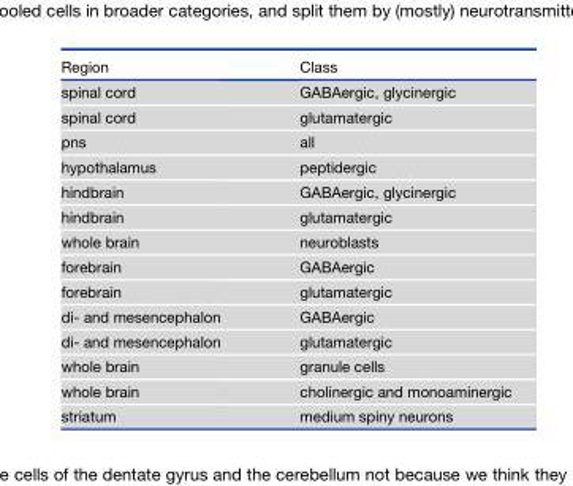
<table><thead><tr><td>Region</td><td>Class</td></tr></thead><tbody><tr><td>spinal cord</td><td>GABAergic, glycinergic</td></tr><tr><td>spinal cord</td><td>glutamatergic</td></tr><tr><td>pns</td><td>all</td></tr><tr><td>hypothalamus</td><td>peptidergic</td></tr><tr><td>hindbrain</td><td>GABAergic, glycinergic</td></tr><tr><td>hindbrain</td><td>glutamatergic</td></tr><tr><td>whole brain</td><td>neuroblasts</td></tr><tr><td>forebrain</td><td>GABAergic</td></tr><tr><td>forebrain</td><td>glutamatergic</td></tr><tr><td>di- and mesencephalon</td><td>GABAergic</td></tr><tr><td>di- and mesencephalon</td><td>glutamatergic</td></tr><tr><td>whole brain</td><td>granule cells</td></tr><tr><td>whole brain</td><td>cholinergic and monoaminergic</td></tr><tr><td>striatum</td><td>medium spiny neurons</td></tr></tbody></table>